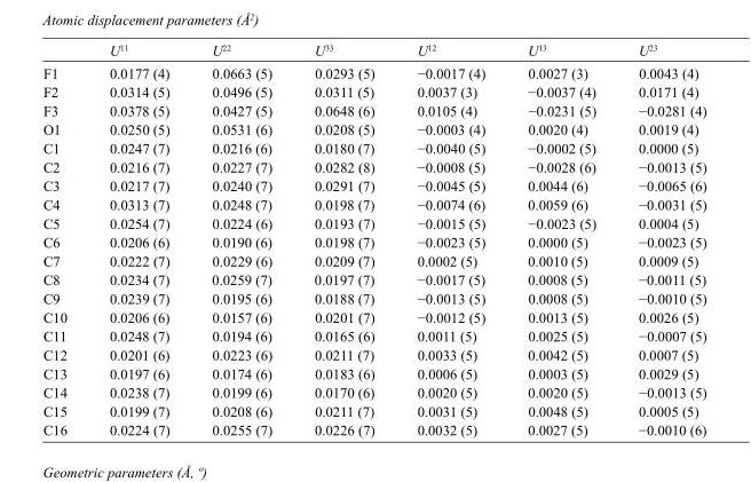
<table><thead><tr><td></td><td>U<sup>11</sup></td><td>U<sup>22</sup></td><td>U<sup>33</sup></td><td>U<sup>12</sup></td><td>U<sup>13</sup></td><td>U<sup>23</sup></td></tr></thead><tbody><tr><td>F1</td><td>0.0177 (4)</td><td>0.0663 (5)</td><td>0.0293 (5)</td><td>−0.0017 (4)</td><td>0.0027 (3)</td><td>0.0043 (4)</td></tr><tr><td>F2</td><td>0.0314 (5)</td><td>0.0496 (5)</td><td>0.0311 (5)</td><td>0.0037 (3)</td><td>−0.0037 (4)</td><td>0.0171 (4)</td></tr><tr><td>F3</td><td>0.0378 (5)</td><td>0.0427 (5)</td><td>0.0648 (6)</td><td>0.0105 (4)</td><td>−0.0231 (5)</td><td>−0.0281 (4)</td></tr><tr><td>O1</td><td>0.0250 (5)</td><td>0.0531 (6)</td><td>0.0208 (5)</td><td>−0.0003 (4)</td><td>0.0020 (4)</td><td>0.0019 (4)</td></tr><tr><td>C1</td><td>0.0247 (7)</td><td>0.0216 (6)</td><td>0.0180 (7)</td><td>−0.0040 (5)</td><td>−0.0002 (5)</td><td>0.0000 (5)</td></tr><tr><td>C2</td><td>0.0216 (7)</td><td>0.0227 (7)</td><td>0.0282 (8)</td><td>−0.0008 (5)</td><td>−0.0028 (6)</td><td>−0.0013 (5)</td></tr><tr><td>C3</td><td>0.0217 (7)</td><td>0.0240 (7)</td><td>0.0291 (7)</td><td>−0.0045 (5)</td><td>0.0044 (6)</td><td>−0.0065 (6)</td></tr><tr><td>C4</td><td>0.0313 (7)</td><td>0.0248 (7)</td><td>0.0198 (7)</td><td>−0.0074 (6)</td><td>0.0059 (6)</td><td>−0.0031 (5)</td></tr><tr><td>C5</td><td>0.0254 (7)</td><td>0.0224 (6)</td><td>0.0193 (7)</td><td>−0.0015 (5)</td><td>−0.0023 (5)</td><td>0.0004 (5)</td></tr><tr><td>C6</td><td>0.0206 (6)</td><td>0.0190 (6)</td><td>0.0198 (7)</td><td>−0.0023 (5)</td><td>0.0000 (5)</td><td>−0.0023 (5)</td></tr><tr><td>C7</td><td>0.0222 (7)</td><td>0.0229 (6)</td><td>0.0209 (7)</td><td>0.0002 (5)</td><td>0.0010 (5)</td><td>0.0009 (5)</td></tr><tr><td>C8</td><td>0.0234 (7)</td><td>0.0259 (7)</td><td>0.0197 (7)</td><td>−0.0017 (5)</td><td>0.0008 (5)</td><td>−0.0011 (5)</td></tr><tr><td>C9</td><td>0.0239 (7)</td><td>0.0195 (6)</td><td>0.0188 (7)</td><td>−0.0013 (5)</td><td>0.0008 (5)</td><td>−0.0010 (5)</td></tr><tr><td>C10</td><td>0.0206 (6)</td><td>0.0157 (6)</td><td>0.0201 (7)</td><td>−0.0012 (5)</td><td>0.0013 (5)</td><td>0.0026 (5)</td></tr><tr><td>C11</td><td>0.0248 (7)</td><td>0.0194 (6)</td><td>0.0165 (6)</td><td>0.0011 (5)</td><td>0.0025 (5)</td><td>−0.0007 (5)</td></tr><tr><td>C12</td><td>0.0201 (6)</td><td>0.0223 (6)</td><td>0.0211 (7)</td><td>0.0033 (5)</td><td>0.0042 (5)</td><td>0.0007 (5)</td></tr><tr><td>C13</td><td>0.0197 (6)</td><td>0.0174 (6)</td><td>0.0183 (6)</td><td>0.0006 (5)</td><td>0.0003 (5)</td><td>0.0029 (5)</td></tr><tr><td>C14</td><td>0.0238 (7)</td><td>0.0199 (6)</td><td>0.0170 (6)</td><td>0.0020 (5)</td><td>0.0020 (5)</td><td>−0.0013 (5)</td></tr><tr><td>C15</td><td>0.0199 (7)</td><td>0.0208 (6)</td><td>0.0211 (7)</td><td>0.0031 (5)</td><td>0.0048 (5)</td><td>0.0005 (5)</td></tr><tr><td>C16</td><td>0.0224 (7)</td><td>0.0255 (7)</td><td>0.0226 (7)</td><td>0.0032 (5)</td><td>0.0027 (5)</td><td>−0.0010 (6)</td></tr></tbody></table>